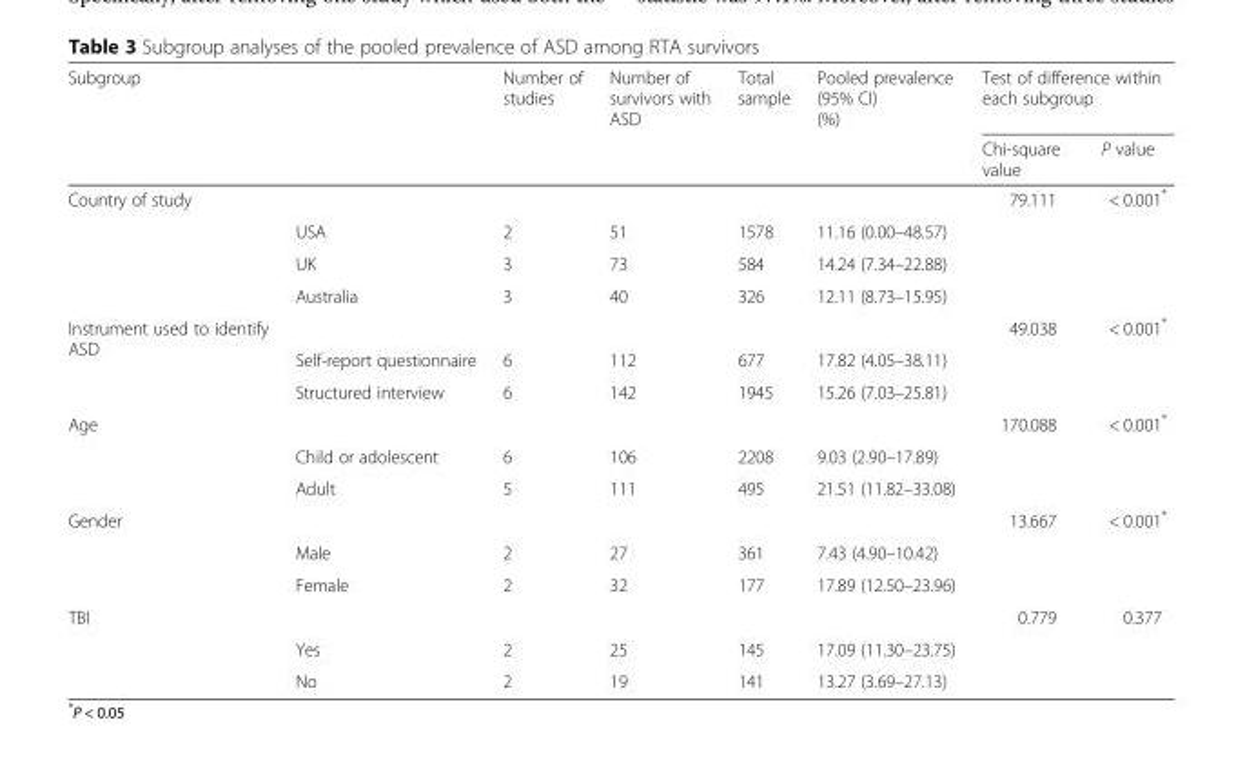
<table><thead><tr><td rowspan="2">Subgroup</td><td rowspan="2"></td><td rowspan="2">Number of studies</td><td rowspan="2">Number of survivors with ASD</td><td rowspan="2">Total sample</td><td rowspan="2">Pooled prevalence (95% CI) (%)</td><td colspan="2">Test of difference within each subgroup</td></tr><tr><td>Chi-square value</td><td>P value</td></tr></thead><tbody><tr><td rowspan="4">Country of study</td><td></td><td></td><td></td><td></td><td></td><td>79.111</td><td>&lt; 0.001*</td></tr><tr><td>USA</td><td>2</td><td>51</td><td>1578</td><td>11.16 (0.00–48.57)</td><td></td><td></td></tr><tr><td>UK</td><td>3</td><td>73</td><td>584</td><td>14.24 (7.34–22.88)</td><td></td><td></td></tr><tr><td>Australia</td><td>3</td><td>40</td><td>326</td><td>12.11 (8.73–15.95)</td><td></td><td></td></tr><tr><td rowspan="3">Instrument used to identify ASD</td><td></td><td></td><td></td><td></td><td></td><td>49.038</td><td>&lt; 0.001*</td></tr><tr><td>Self-report questionnaire</td><td>6</td><td>112</td><td>677</td><td>17.82 (4.05–38.11)</td><td></td><td></td></tr><tr><td>Structured interview</td><td>6</td><td>142</td><td>1945</td><td>15.26 (7.03–25.81)</td><td></td><td></td></tr><tr><td rowspan="3">Age</td><td></td><td></td><td></td><td></td><td></td><td>170.088</td><td>&lt; 0.001*</td></tr><tr><td>Child or adolescent</td><td>6</td><td>106</td><td>2208</td><td>9.03 (2.90–17.89)</td><td></td><td></td></tr><tr><td>Adult</td><td>5</td><td>111</td><td>495</td><td>21.51 (11.82–33.08)</td><td></td><td></td></tr><tr><td rowspan="3">Gender</td><td></td><td></td><td></td><td></td><td></td><td>13.667</td><td>&lt; 0.001*</td></tr><tr><td>Male</td><td>2</td><td>27</td><td>361</td><td>7.43 (4.90–10.42)</td><td></td><td></td></tr><tr><td>Female</td><td>2</td><td>32</td><td>177</td><td>17.89 (12.50–23.96)</td><td></td><td></td></tr><tr><td rowspan="3">TBI</td><td></td><td></td><td></td><td></td><td></td><td>0.779</td><td>0.377</td></tr><tr><td>Yes</td><td>2</td><td>25</td><td>145</td><td>17.09 (11.30–23.75)</td><td></td><td></td></tr><tr><td>No</td><td>2</td><td>19</td><td>141</td><td>13.27 (3.69–27.13)</td><td></td><td></td></tr></tbody></table>